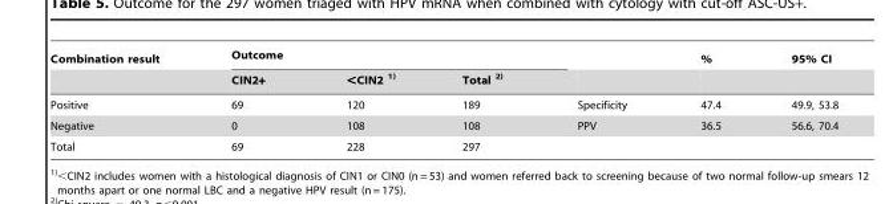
<table><thead><tr><td rowspan="2">Combination result</td><td colspan="3">Outcome</td><td rowspan="2"></td><td rowspan="2">%</td><td rowspan="2">95% CI</td></tr><tr><td>CIN2+</td><td>&lt;CIN2 1)</td><td>Total 2)</td></tr></thead><tbody><tr><td>Positive</td><td>69</td><td>120</td><td>189</td><td>Specificity</td><td>47.4</td><td>49.9, 53.8</td></tr><tr><td>Negative</td><td>0</td><td>108</td><td>108</td><td>PPV</td><td>36.5</td><td>56.6, 70.4</td></tr><tr><td>Total</td><td>69</td><td>228</td><td>297</td><td></td><td></td><td></td></tr></tbody></table>